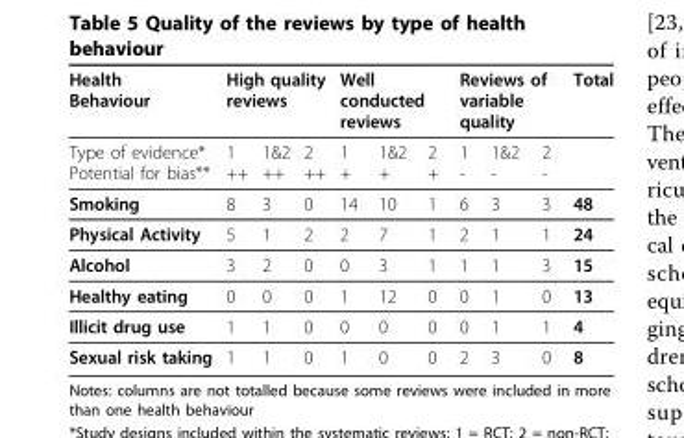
<table><thead><tr><td rowspan="2">Health Behaviour Type of evidence* Potential for bias**</td><td colspan="3">High quality reviews</td><td colspan="3">Well conducted reviews</td><td colspan="3">Reviews of variable quality</td><td rowspan="2">Total</td></tr><tr><td>1 ++</td><td>1&amp;2 ++</td><td>2 ++</td><td>1 +</td><td>1&amp;2 +</td><td>2 +</td><td>1 -</td><td>1&amp;2 -</td><td>2 -</td></tr></thead><tbody><tr><td>Smoking</td><td>8</td><td>3</td><td>0</td><td>14</td><td>10</td><td>1</td><td>6</td><td>3</td><td>3</td><td>48</td></tr><tr><td>Physical Activity</td><td>5</td><td>1</td><td>2</td><td>2</td><td>7</td><td>1</td><td>2</td><td>1</td><td>1</td><td>24</td></tr><tr><td>Alcohol</td><td>3</td><td>2</td><td>0</td><td>0</td><td>3</td><td>1</td><td>1</td><td>1</td><td>3</td><td>15</td></tr><tr><td>Healthy eating</td><td>0</td><td>0</td><td>0</td><td>1</td><td>12</td><td>0</td><td>0</td><td>1</td><td>0</td><td>13</td></tr><tr><td>Illicit drug use</td><td>1</td><td>1</td><td>0</td><td>0</td><td>0</td><td>0</td><td>0</td><td>1</td><td>1</td><td>4</td></tr><tr><td>Sexual risk taking</td><td>1</td><td>1</td><td>0</td><td>1</td><td>0</td><td>0</td><td>2</td><td>3</td><td>0</td><td>8</td></tr></tbody></table>